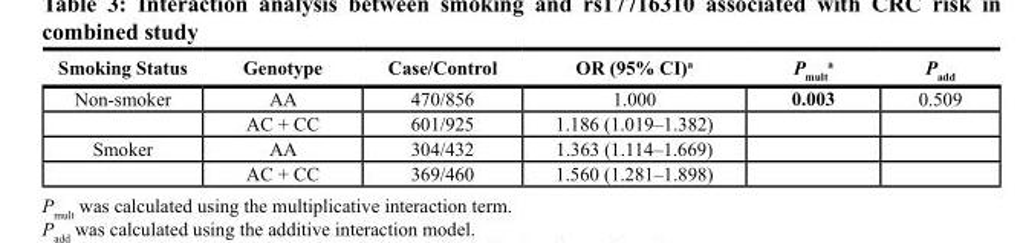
<table><thead><tr><td>Smoking Status</td><td>Genotype</td><td>Case/Control</td><td>OR (95% CI)<sup>a</sup></td><td>P<sub>mult</sub> <sup>a</sup></td><td>P<sub>add</sub></td></tr></thead><tbody><tr><td rowspan="2">Non-smoker</td><td>AA</td><td>470/856</td><td>1.000</td><td>0.003</td><td>0.509</td></tr><tr><td>AC + CC</td><td>601/925</td><td>1.186 (1.019–1.382)</td><td></td><td></td></tr><tr><td rowspan="2">Smoker</td><td>AA</td><td>304/432</td><td>1.363 (1.114–1.669)</td><td></td><td></td></tr><tr><td>AC + CC</td><td>369/460</td><td>1.560 (1.281–1.898)</td><td></td><td></td></tr></tbody></table>